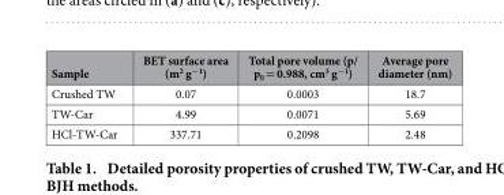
<table><thead><tr><td>Sample</td><td>BET surface area (m<sup>2</sup> g<sup>−1</sup>)</td><td>Total pore volume (p/ p<sub>0</sub> = 0.988, cm<sup>3</sup> g<sup>−1</sup>)</td><td>Average pore diameter (nm)</td></tr></thead><tbody><tr><td>Crushed TW</td><td>0.07</td><td>0.0003</td><td>18.7</td></tr><tr><td>TW-Car</td><td>4.99</td><td>0.0071</td><td>5.69</td></tr><tr><td>HCl-TW-Car</td><td>337.71</td><td>0.2098</td><td>2.48</td></tr></tbody></table>